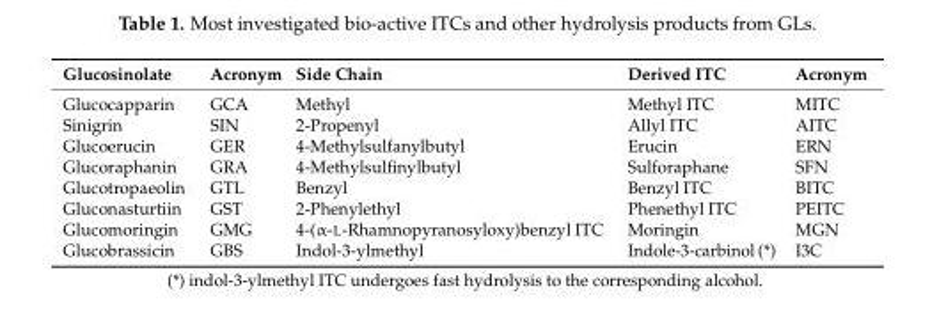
<table><thead><tr><td>Glucosinolate</td><td>Acronym</td><td>Side Chain</td><td>Derived ITC</td><td>Acronym</td></tr></thead><tbody><tr><td>Glucocapparin</td><td>GCA</td><td>Methyl</td><td>Methyl ITC</td><td>MITC</td></tr><tr><td>Sinigrin</td><td>SIN</td><td>2-Propenyl</td><td>Allyl ITC</td><td>AITC</td></tr><tr><td>Glucoerucin</td><td>GER</td><td>4-Methylsulfanylbutyl</td><td>Erucin</td><td>ERN</td></tr><tr><td>Glucoraphanin</td><td>GRA</td><td>4-Methylsulfinylbutyl</td><td>Sulforaphane</td><td>SFN</td></tr><tr><td>Glucotropaeolin</td><td>GTL</td><td>Benzyl</td><td>Benzyl ITC</td><td>BITC</td></tr><tr><td>Gluconasturtiin</td><td>GST</td><td>2-Phenylethyl</td><td>Phenethyl ITC</td><td>PEITC</td></tr><tr><td>Glucomoringin</td><td>GMG</td><td>4-(α-L-Rhamnopyranosyloxy)benzyl ITC</td><td>Moringin</td><td>MGN</td></tr><tr><td>Glucobrassicin</td><td>GBS</td><td>Indol-3-ylmethyl</td><td>Indole-3-carbinol (*)</td><td>I3C</td></tr></tbody></table>